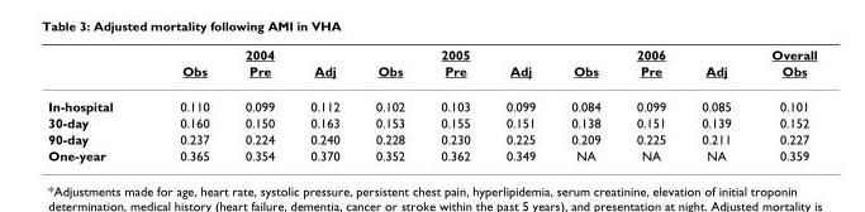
<table><thead><tr><td rowspan="2"></td><td rowspan="2">Obs</td><td rowspan="2">2004 Pre</td><td rowspan="2">Adj</td><td rowspan="2">Obs</td><td rowspan="2">2005 Pre</td><td rowspan="2">Adj</td><td rowspan="2">Obs</td><td rowspan="2">2006 Pre</td><td rowspan="2">Adj</td><td rowspan="2">Overall Obs</td></tr><tr></tr></thead><tbody><tr><td>In-hospital</td><td>0.110</td><td>0.099</td><td>0.112</td><td>0.102</td><td>0.103</td><td>0.099</td><td>0.084</td><td>0.099</td><td>0.085</td><td>0.101</td></tr><tr><td>30-day</td><td>0.160</td><td>0.150</td><td>0.163</td><td>0.153</td><td>0.155</td><td>0.151</td><td>0.138</td><td>0.151</td><td>0.139</td><td>0.152</td></tr><tr><td>90-day</td><td>0.237</td><td>0.224</td><td>0.240</td><td>0.228</td><td>0.230</td><td>0.225</td><td>0.209</td><td>0.225</td><td>0.211</td><td>0.227</td></tr><tr><td>One-year</td><td>0.365</td><td>0.354</td><td>0.370</td><td>0.352</td><td>0.362</td><td>0.349</td><td>NA</td><td>NA</td><td>NA</td><td>0.359</td></tr></tbody></table>